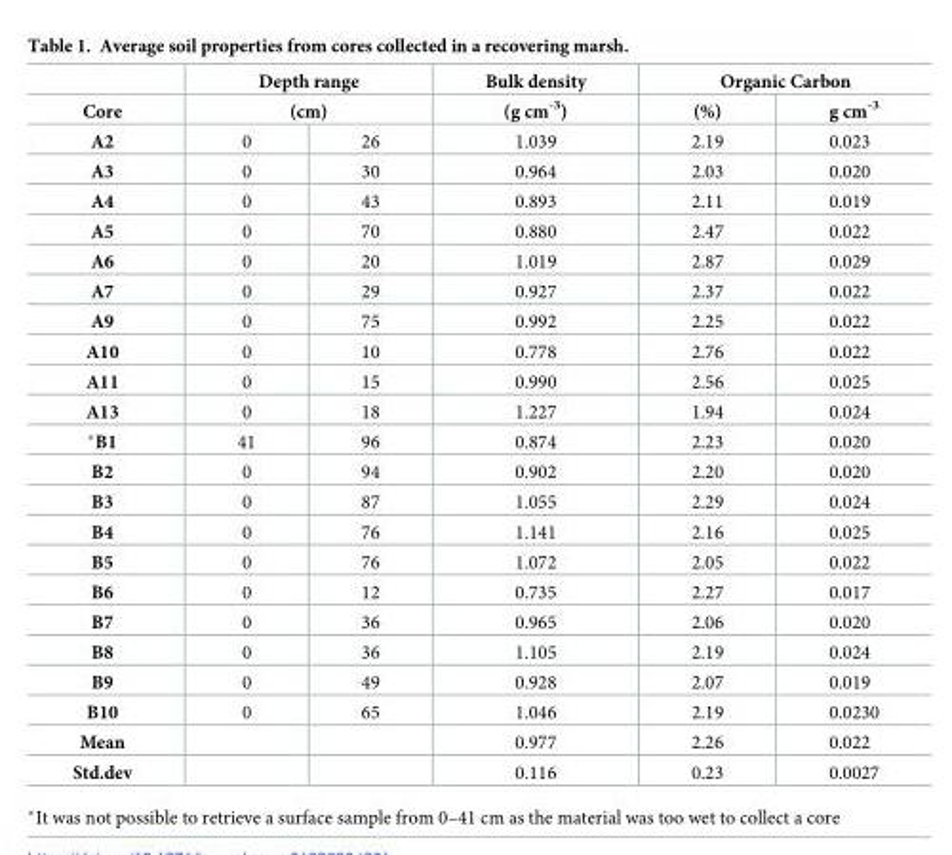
<table><thead><tr><td rowspan="3">Core A2</td><td rowspan="2" colspan="2">Depth range (cm)</td><td rowspan="3">Bulk density (g cm<sup>-3</sup>) 1.039</td><td colspan="2">Organic Carbon</td></tr><tr><td rowspan="2">(%) 2.19</td><td rowspan="2">g cm<sup>-3</sup> 0.023</td></tr><tr><td>0</td><td>26</td></tr></thead><tbody><tr><td>A3</td><td>0</td><td>30</td><td>0.964</td><td>2.03</td><td>0.020</td></tr><tr><td>A4</td><td>0</td><td>43</td><td>0.893</td><td>2.11</td><td>0.019</td></tr><tr><td>A5</td><td>0</td><td>70</td><td>0.880</td><td>2.47</td><td>0.022</td></tr><tr><td>A6</td><td>0</td><td>20</td><td>1.019</td><td>2.87</td><td>0.029</td></tr><tr><td>A7</td><td>0</td><td>29</td><td>0.927</td><td>2.37</td><td>0.022</td></tr><tr><td>A9</td><td>0</td><td>75</td><td>0.992</td><td>2.25</td><td>0.022</td></tr><tr><td>A10</td><td>0</td><td>10</td><td>0.778</td><td>2.76</td><td>0.022</td></tr><tr><td>A11</td><td>0</td><td>15</td><td>0.990</td><td>2.56</td><td>0.025</td></tr><tr><td>A13</td><td>0</td><td>18</td><td>1.227</td><td>1.94</td><td>0.024</td></tr><tr><td>*B1</td><td>41</td><td>96</td><td>0.874</td><td>2.23</td><td>0.020</td></tr><tr><td>B2</td><td>0</td><td>94</td><td>0.902</td><td>2.20</td><td>0.020</td></tr><tr><td>B3</td><td>0</td><td>87</td><td>1.055</td><td>2.29</td><td>0.024</td></tr><tr><td>B4</td><td>0</td><td>76</td><td>1.141</td><td>2.16</td><td>0.025</td></tr><tr><td>B5</td><td>0</td><td>76</td><td>1.072</td><td>2.05</td><td>0.022</td></tr><tr><td>B6</td><td>0</td><td>12</td><td>0.735</td><td>2.27</td><td>0.017</td></tr><tr><td>B7</td><td>0</td><td>36</td><td>0.965</td><td>2.06</td><td>0.020</td></tr><tr><td>B8</td><td>0</td><td>36</td><td>1.105</td><td>2.19</td><td>0.024</td></tr><tr><td>B9</td><td>0</td><td>49</td><td>0.928</td><td>2.07</td><td>0.019</td></tr><tr><td>B10</td><td>0</td><td>65</td><td>1.046</td><td>2.19</td><td>0.0230</td></tr><tr><td>Mean</td><td></td><td></td><td>0.977</td><td>2.26</td><td>0.022</td></tr><tr><td>Std.dev</td><td></td><td></td><td>0.116</td><td>0.23</td><td>0.0027</td></tr></tbody></table>